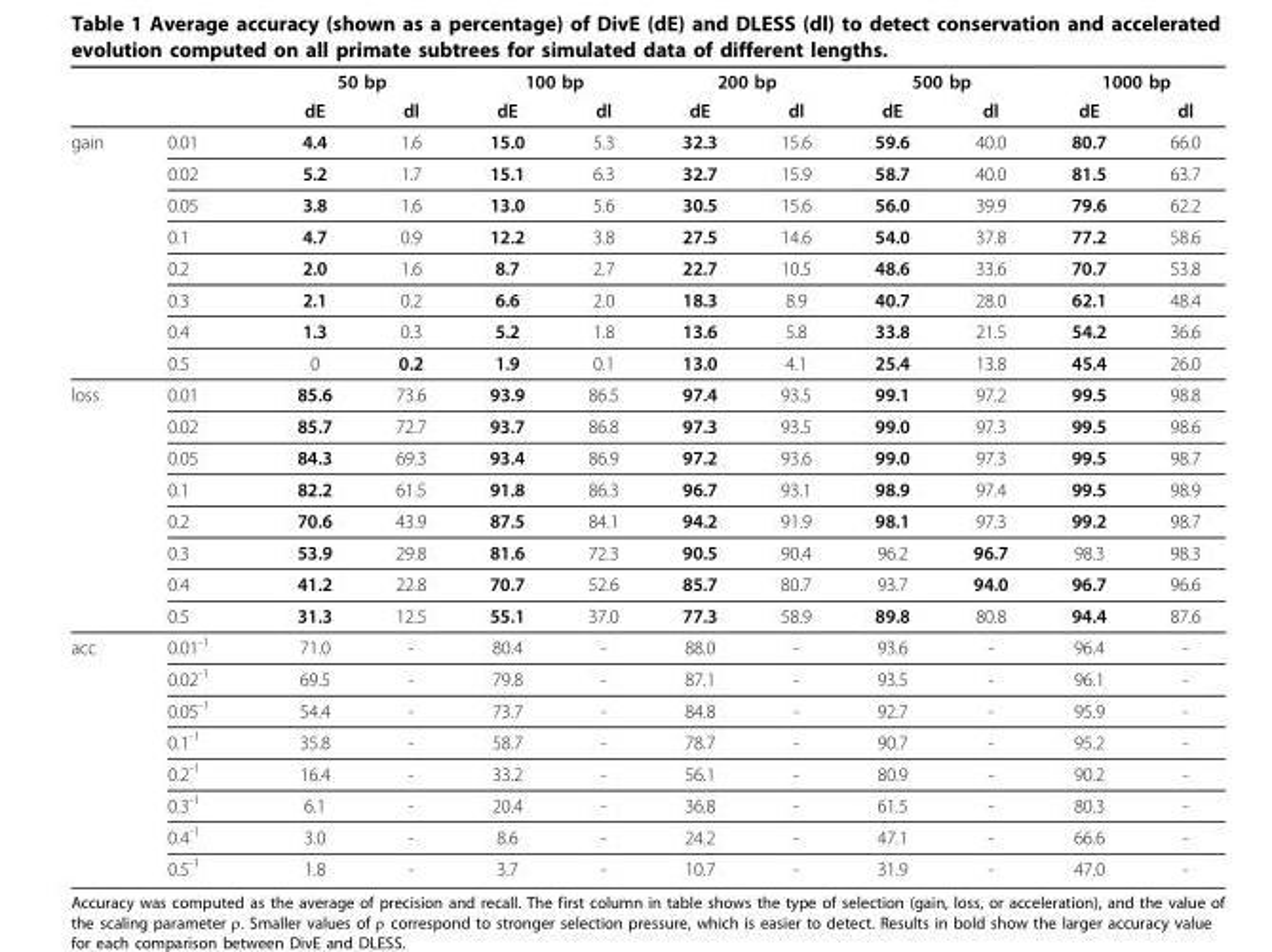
<table><thead><tr><td rowspan="2"></td><td rowspan="2"></td><td colspan="2">50 bp</td><td colspan="2">100 bp</td><td colspan="2">200 bp</td><td colspan="2">500 bp</td><td colspan="2">1000 bp</td></tr><tr><td>dE</td><td>dl</td><td>dE</td><td>dl</td><td>dE</td><td>dl</td><td>dE</td><td>dl</td><td>dE</td><td>dl</td></tr></thead><tbody><tr><td rowspan="8">gain</td><td>0.01</td><td>4.4</td><td>1.6</td><td>15.0</td><td>5.3</td><td>32.3</td><td>15.6</td><td>59.6</td><td>40.0</td><td>80.7</td><td>66.0</td></tr><tr><td>0.02</td><td>5.2</td><td>1.7</td><td>15.1</td><td>6.3</td><td>32.7</td><td>15.9</td><td>58.7</td><td>40.0</td><td>81.5</td><td>63.7</td></tr><tr><td>0.05</td><td>3.8</td><td>1.6</td><td>13.0</td><td>5.6</td><td>30.5</td><td>15.6</td><td>56.0</td><td>39.9</td><td>79.6</td><td>62.2</td></tr><tr><td>0.1</td><td>4.7</td><td>0.9</td><td>12.2</td><td>3.8</td><td>27.5</td><td>14.6</td><td>54.0</td><td>37.8</td><td>77.2</td><td>58.6</td></tr><tr><td>0.2</td><td>2.0</td><td>1.6</td><td>8.7</td><td>2.7</td><td>22.7</td><td>10.5</td><td>48.6</td><td>33.6</td><td>70.7</td><td>53.8</td></tr><tr><td>0.3</td><td>2.1</td><td>0.2</td><td>6.6</td><td>2.0</td><td>18.3</td><td>8.9</td><td>40.7</td><td>28.0</td><td>62.1</td><td>48.4</td></tr><tr><td>0.4</td><td>1.3</td><td>0.3</td><td>5.2</td><td>1.8</td><td>13.6</td><td>5.8</td><td>33.8</td><td>21.5</td><td>54.2</td><td>36.6</td></tr><tr><td>0.5</td><td>0</td><td>0.2</td><td>1.9</td><td>0.1</td><td>13.0</td><td>4.1</td><td>25.4</td><td>13.8</td><td>45.4</td><td>26.0</td></tr><tr><td rowspan="8">loss</td><td>0.01</td><td>85.6</td><td>73.6</td><td>93.9</td><td>86.5</td><td>97.4</td><td>93.5</td><td>99.1</td><td>97.2</td><td>99.5</td><td>98.8</td></tr><tr><td>0.02</td><td>85.7</td><td>72.7</td><td>93.7</td><td>86.8</td><td>97.3</td><td>93.5</td><td>99.0</td><td>97.3</td><td>99.5</td><td>98.6</td></tr><tr><td>0.05</td><td>84.3</td><td>69.3</td><td>93.4</td><td>86.9</td><td>97.2</td><td>93.6</td><td>99.0</td><td>97.3</td><td>99.5</td><td>98.7</td></tr><tr><td>0.1</td><td>82.2</td><td>61.5</td><td>91.8</td><td>86.3</td><td>96.7</td><td>93.1</td><td>98.9</td><td>97.4</td><td>99.5</td><td>98.9</td></tr><tr><td>0.2</td><td>70.6</td><td>43.9</td><td>87.5</td><td>84.1</td><td>94.2</td><td>91.9</td><td>98.1</td><td>97.3</td><td>99.2</td><td>98.7</td></tr><tr><td>0.3</td><td>53.9</td><td>29.8</td><td>81.6</td><td>72.3</td><td>90.5</td><td>90.4</td><td>96.2</td><td>96.7</td><td>98.3</td><td>98.3</td></tr><tr><td>0.4</td><td>41.2</td><td>22.8</td><td>70.7</td><td>52.6</td><td>85.7</td><td>80.7</td><td>93.7</td><td>94.0</td><td>96.7</td><td>96.6</td></tr><tr><td>0.5</td><td>31.3</td><td>12.5</td><td>55.1</td><td>37.0</td><td>77.3</td><td>58.9</td><td>89.8</td><td>80.8</td><td>94.4</td><td>87.6</td></tr><tr><td rowspan="8">acc</td><td>0.01<sup>-1</sup></td><td>71.0</td><td>-</td><td>80.4</td><td>-</td><td>88.0</td><td>-</td><td>93.6</td><td>-</td><td>96.4</td><td>-</td></tr><tr><td>0.02<sup>-1</sup></td><td>69.5</td><td>-</td><td>79.8</td><td>-</td><td>87.1</td><td>-</td><td>93.5</td><td>-</td><td>96.1</td><td>-</td></tr><tr><td>0.05<sup>-1</sup></td><td>54.4</td><td>-</td><td>73.7</td><td>-</td><td>84.8</td><td>-</td><td>92.7</td><td>-</td><td>95.9</td><td>-</td></tr><tr><td>0.1<sup>-1</sup></td><td>35.8</td><td>-</td><td>58.7</td><td>-</td><td>78.7</td><td>-</td><td>90.7</td><td>-</td><td>95.2</td><td>-</td></tr><tr><td>0.2<sup>-1</sup></td><td>16.4</td><td>-</td><td>33.2</td><td>-</td><td>56.1</td><td>-</td><td>80.9</td><td>-</td><td>90.2</td><td>-</td></tr><tr><td>0.3<sup>-1</sup></td><td>6.1</td><td>-</td><td>20.4</td><td>-</td><td>36.8</td><td>-</td><td>61.5</td><td>-</td><td>80.3</td><td>-</td></tr><tr><td>0.4<sup>-1</sup></td><td>3.0</td><td>-</td><td>8.6</td><td>-</td><td>24.2</td><td>-</td><td>47.1</td><td>-</td><td>66.6</td><td>-</td></tr><tr><td>0.5<sup>-1</sup></td><td>1.8</td><td>-</td><td>3.7</td><td>-</td><td>10.7</td><td>-</td><td>31.9</td><td>-</td><td>47.0</td><td>-</td></tr></tbody></table>